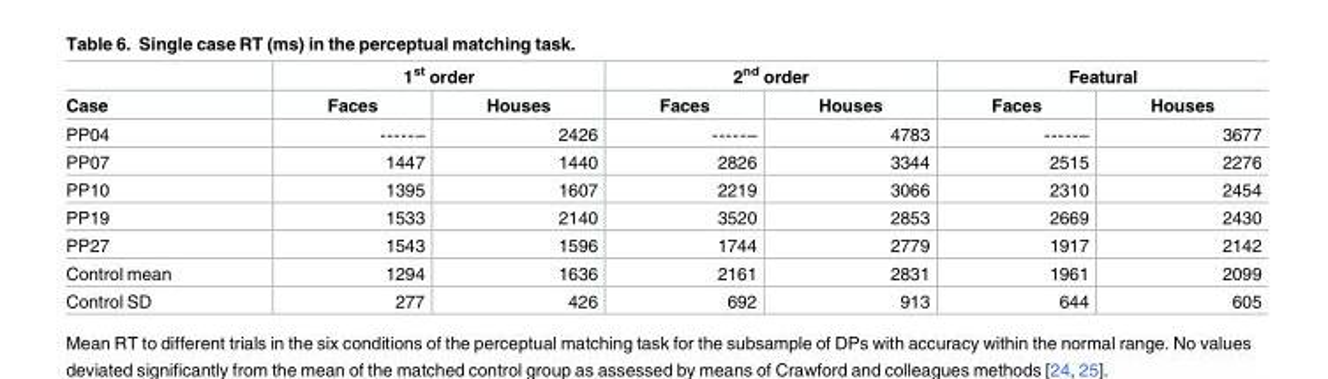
<table><thead><tr><td rowspan="2">Case</td><td colspan="2">1<sup>st</sup> order</td><td colspan="2">2<sup>nd</sup> order</td><td colspan="2">Featural</td></tr><tr><td>Faces</td><td>Houses</td><td>Faces</td><td>Houses</td><td>Faces</td><td>Houses</td></tr></thead><tbody><tr><td>PP04</td><td>-----–</td><td>2426</td><td>-----–</td><td>4783</td><td>-----–</td><td>3677</td></tr><tr><td>PP07</td><td>1447</td><td>1440</td><td>2826</td><td>3344</td><td>2515</td><td>2276</td></tr><tr><td>PP10</td><td>1395</td><td>1607</td><td>2219</td><td>3066</td><td>2310</td><td>2454</td></tr><tr><td>PP19</td><td>1533</td><td>2140</td><td>3520</td><td>2853</td><td>2669</td><td>2430</td></tr><tr><td>PP27</td><td>1543</td><td>1596</td><td>1744</td><td>2779</td><td>1917</td><td>2142</td></tr><tr><td>Control mean</td><td>1294</td><td>1636</td><td>2161</td><td>2831</td><td>1961</td><td>2099</td></tr><tr><td>Control SD</td><td>277</td><td>426</td><td>692</td><td>913</td><td>644</td><td>605</td></tr></tbody></table>